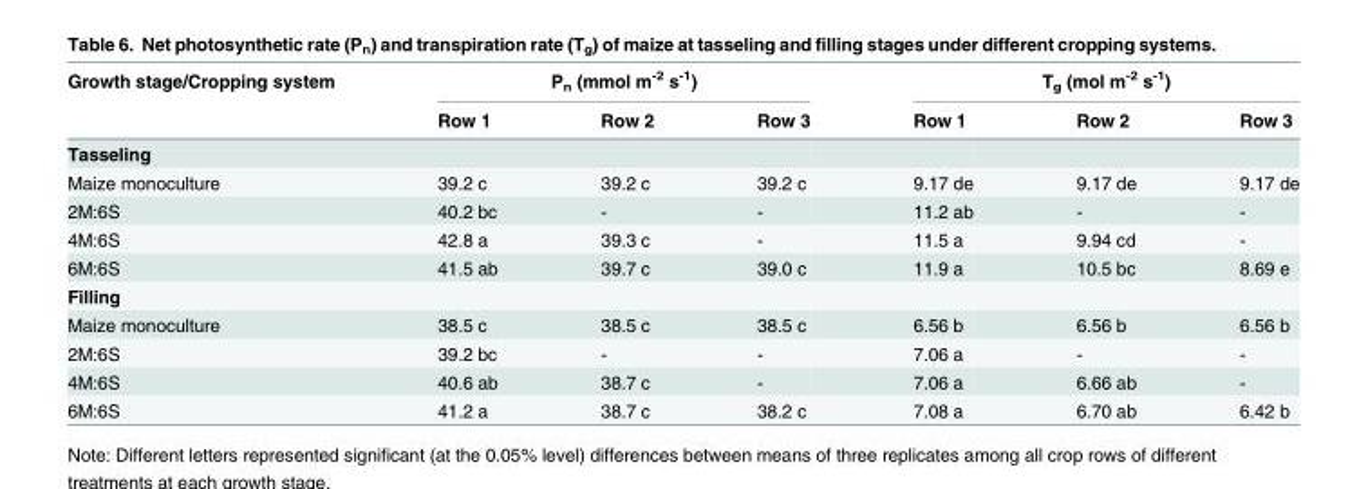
<table><thead><tr><td rowspan="2">Growth stage/Cropping system</td><td colspan="3">P<sub>n</sub> (mmol m<sup>-2</sup> s<sup>-1</sup>)</td><td colspan="3">T<sub>g</sub> (mol m<sup>-2</sup> s<sup>-1</sup>)</td></tr><tr><td>Row 1</td><td>Row 2</td><td>Row 3</td><td>Row 1</td><td>Row 2</td><td>Row 3</td></tr></thead><tbody><tr><td colspan="7">Tasseling</td></tr><tr><td>Maize monoculture</td><td>39.2 c</td><td>39.2 c</td><td>39.2 c</td><td>9.17 de</td><td>9.17 de</td><td>9.17 de</td></tr><tr><td>2M:6S</td><td>40.2 bc</td><td>-</td><td>-</td><td>11.2 ab</td><td>-</td><td>-</td></tr><tr><td>4M:6S</td><td>42.8 a</td><td>39.3 c</td><td>-</td><td>11.5 a</td><td>9.94 cd</td><td>-</td></tr><tr><td>6M:6S</td><td>41.5 ab</td><td>39.7 c</td><td>39.0 c</td><td>11.9 a</td><td>10.5 bc</td><td>8.69 e</td></tr><tr><td colspan="7">Filling</td></tr><tr><td>Maize monoculture</td><td>38.5 c</td><td>38.5 c</td><td>38.5 c</td><td>6.56 b</td><td>6.56 b</td><td>6.56 b</td></tr><tr><td>2M:6S</td><td>39.2 bc</td><td>-</td><td>-</td><td>7.06 a</td><td>-</td><td>-</td></tr><tr><td>4M:6S</td><td>40.6 ab</td><td>38.7 c</td><td>-</td><td>7.06 a</td><td>6.66 ab</td><td>-</td></tr><tr><td>6M:6S</td><td>41.2 a</td><td>38.7 c</td><td>38.2 c</td><td>7.08 a</td><td>6.70 ab</td><td>6.42 b</td></tr></tbody></table>